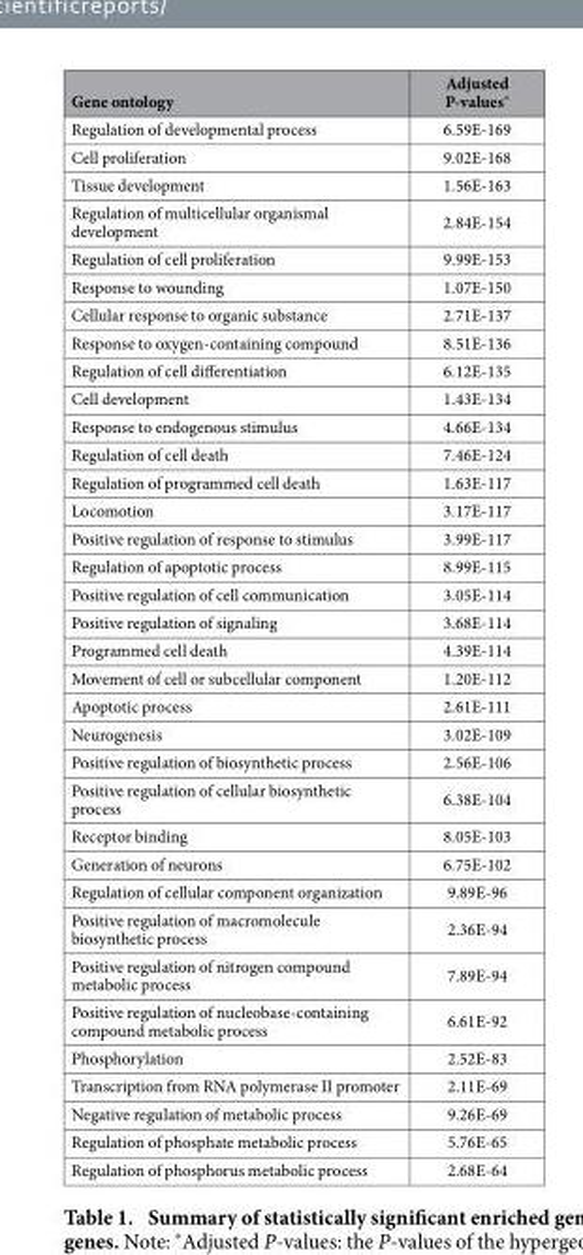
<table><thead><tr><td>Gene ontology</td><td>Adjusted P-values*</td></tr></thead><tbody><tr><td>Regulation of developmental process</td><td>6.59E-169</td></tr><tr><td>Cell proliferation</td><td>9.02E-168</td></tr><tr><td>Tissue development</td><td>1.56E-163</td></tr><tr><td>Regulation of multicellular organismal development</td><td>2.84E-154</td></tr><tr><td>Regulation of cell proliferation</td><td>9.99E-153</td></tr><tr><td>Response to wounding</td><td>1.07E-150</td></tr><tr><td>Cellular response to organic substance</td><td>2.71E-137</td></tr><tr><td>Response to oxygen-containing compound</td><td>8.51E-136</td></tr><tr><td>Regulation of cell differentiation</td><td>6.12E-135</td></tr><tr><td>Cell development</td><td>1.43E-134</td></tr><tr><td>Response to endogenous stimulus</td><td>4.66E-134</td></tr><tr><td>Regulation of cell death</td><td>7.46E-124</td></tr><tr><td>Regulation of programmed cell death</td><td>1.63E-117</td></tr><tr><td>Locomotion</td><td>3.17E-117</td></tr><tr><td>Positive regulation of response to stimulus</td><td>3.99E-117</td></tr><tr><td>Regulation of apoptotic process</td><td>8.99E-115</td></tr><tr><td>Positive regulation of cell communication</td><td>3.05E-114</td></tr><tr><td>Positive regulation of signaling</td><td>3.68E-114</td></tr><tr><td>Programmed cell death</td><td>4.39E-114</td></tr><tr><td>Movement of cell or subcellular component</td><td>1.20E-112</td></tr><tr><td>Apoptotic process</td><td>2.61E-111</td></tr><tr><td>Neurogenesis</td><td>3.02E-109</td></tr><tr><td>Positive regulation of biosynthetic process</td><td>2.56E-106</td></tr><tr><td>Positive regulation of cellular biosynthetic process</td><td>6.38E-104</td></tr><tr><td>Receptor binding</td><td>8.05E-103</td></tr><tr><td>Generation of neurons</td><td>6.75E-102</td></tr><tr><td>Regulation of cellular component organization</td><td>9.89E-96</td></tr><tr><td>Positive regulation of macromolecule biosynthetic process</td><td>2.36E-94</td></tr><tr><td>Positive regulation of nitrogen compound metabolic process</td><td>7.89E-94</td></tr><tr><td>Positive regulation of nucleobase-containing compound metabolic process</td><td>6.61E-92</td></tr><tr><td>Phosphorylation</td><td>2.52E-83</td></tr><tr><td>Transcription from RNA polymerase II promoter</td><td>2.11E-69</td></tr><tr><td>Negative regulation of metabolic process</td><td>9.26E-69</td></tr><tr><td>Regulation of phosphate metabolic process</td><td>5.76E-65</td></tr><tr><td>Regulation of phosphorus metabolic process</td><td>2.68E-64</td></tr></tbody></table>